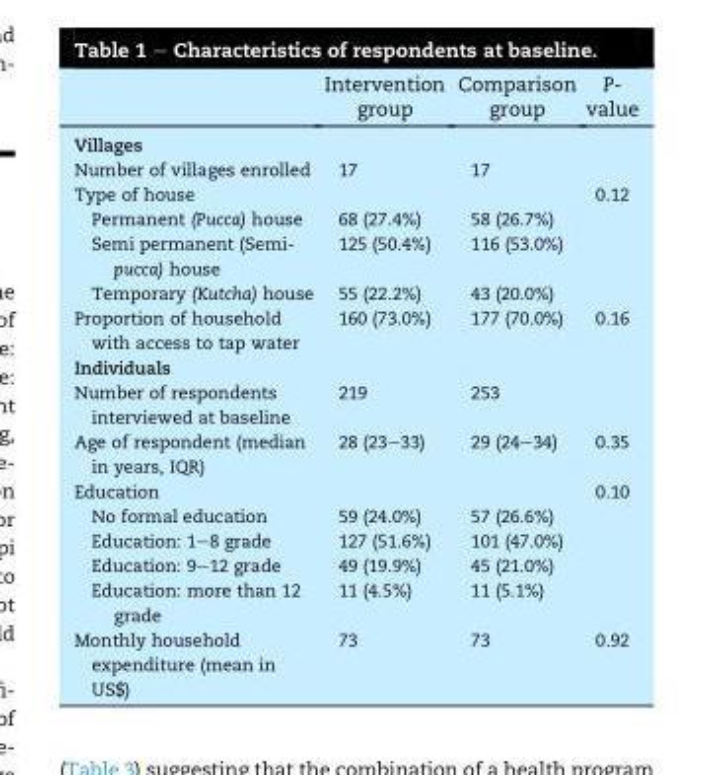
<table><thead><tr><td></td><td>Intervention group</td><td>Comparison group</td><td>P- value</td></tr></thead><tbody><tr><td colspan="4">Villages</td></tr><tr><td>Number of villages enrolled</td><td>17</td><td>17</td><td></td></tr><tr><td>Type of house</td><td></td><td></td><td>0.12</td></tr><tr><td>Permanent (Pucca) house</td><td>68 (27.4%)</td><td>58 (26.7%)</td><td></td></tr><tr><td>Semi permanent (Semi- pucca) house</td><td>125 (50.4%)</td><td>116 (53.0%)</td><td></td></tr><tr><td>Temporary (Kutcha) house</td><td>55 (22.2%)</td><td>43 (20.0%)</td><td></td></tr><tr><td>Proportion of household with access to tap water</td><td>160 (73.0%)</td><td>177 (70.0%)</td><td>0.16</td></tr><tr><td colspan="4">Individuals</td></tr><tr><td>Number of respondents interviewed at baseline</td><td>219</td><td>253</td><td></td></tr><tr><td>Age of respondent (median in years, IQR)</td><td>28 (23–33)</td><td>29 (24–34)</td><td>0.35</td></tr><tr><td>Education</td><td></td><td></td><td>0.10</td></tr><tr><td>No formal education</td><td>59 (24.0%)</td><td>57 (26.6%)</td><td></td></tr><tr><td>Education: 1–8 grade</td><td>127 (51.6%)</td><td>101 (47.0%)</td><td></td></tr><tr><td>Education: 9–12 grade</td><td>49 (19.9%)</td><td>45 (21.0%)</td><td></td></tr><tr><td>Education: more than 12 grade</td><td>11 (4.5%)</td><td>11 (5.1%)</td><td></td></tr><tr><td>Monthly household expenditure (mean in US$)</td><td>73</td><td>73</td><td>0.92</td></tr></tbody></table>